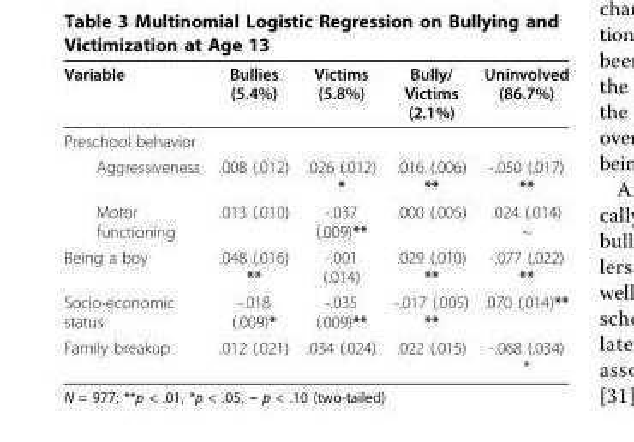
<table><thead><tr><td>Variable</td><td>Bullies (5.4%)</td><td>Victims (5.8%)</td><td>Bully/ Victims (2.1%)</td><td>Uninvolved (86.7%)</td></tr></thead><tbody><tr><td colspan="5">Preschool behavior</td></tr><tr><td>Aggressiveness</td><td>.008 (.012)</td><td>.026 (.012) *</td><td>.016 (.006) **</td><td>-.050 (.017) **</td></tr><tr><td>Motor functioning</td><td>.013 (.010)</td><td>-.037 (.009)**</td><td>.000 (.005)</td><td>.024 (.014) ~</td></tr><tr><td>Being a boy</td><td>.048 (.016) **</td><td>-.001 (.014)</td><td>.029 (.010) **</td><td>-.077 (.022) **</td></tr><tr><td>Socio-economic status</td><td>-.018 (.009)*</td><td>-.035 (.009)**</td><td>-.017 (.005) **</td><td>.070 (.014)**</td></tr><tr><td>Family breakup</td><td>.012 (.021)</td><td>.034 (.024)</td><td>.022 (.015)</td><td>-.068 (.034) *</td></tr></tbody></table>